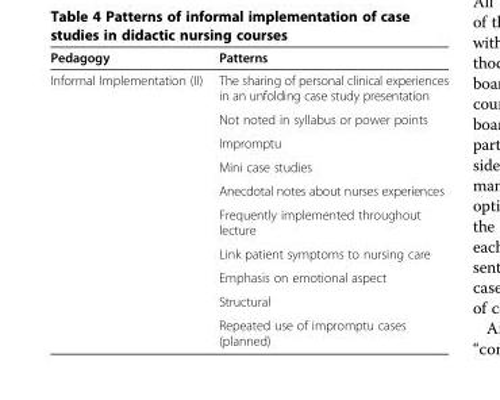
<table><thead><tr><td>Pedagogy</td><td>Patterns</td></tr></thead><tbody><tr><td rowspan="10">Informal Implementation (II)</td><td>The sharing of personal clinical experiences in an unfolding case study presentation</td></tr><tr><td>Not noted in syllabus or power points</td></tr><tr><td>Impromptu</td></tr><tr><td>Mini case studies</td></tr><tr><td>Anecdotal notes about nurses experiences</td></tr><tr><td>Frequently implemented throughout lecture</td></tr><tr><td>Link patient symptoms to nursing care</td></tr><tr><td>Emphasis on emotional aspect</td></tr><tr><td>Structural</td></tr><tr><td>Repeated use of impromptu cases (planned)</td></tr></tbody></table>